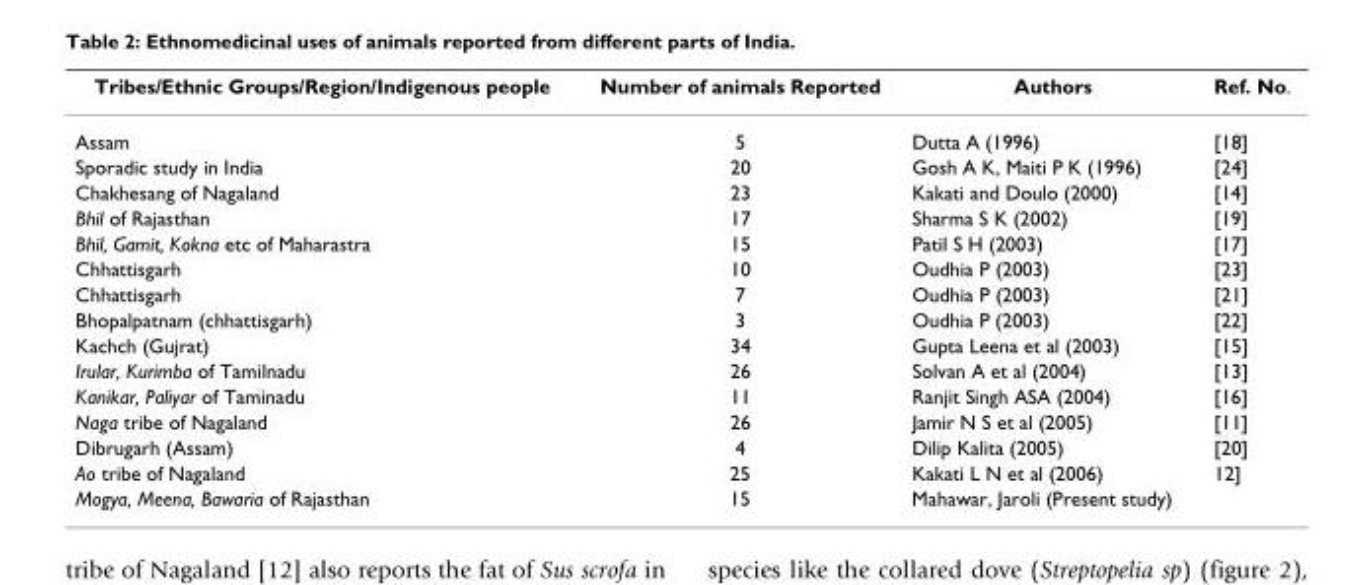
<table><thead><tr><td>Tribes/Ethnic Groups/Region/Indigenous people</td><td>Number of animals Reported</td><td>Authors</td><td>Ref. No.</td></tr></thead><tbody><tr><td>Assam</td><td>5</td><td>Dutta A (1996)</td><td>[18]</td></tr><tr><td>Sporadic study in India</td><td>20</td><td>Gosh A K, Maiti P K (1996)</td><td>[24]</td></tr><tr><td>Chakhesang of Nagaland</td><td>23</td><td>Kakati and Doulo (2000)</td><td>[14]</td></tr><tr><td>Bhil of Rajasthan</td><td>17</td><td>Sharma S K (2002)</td><td>[19]</td></tr><tr><td>Bhil, Gamit, Kokna etc of Maharastra</td><td>15</td><td>Patil S H (2003)</td><td>[17]</td></tr><tr><td>Chhattisgarh</td><td>10</td><td>Oudhia P (2003)</td><td>[23]</td></tr><tr><td>Chhattisgarh</td><td>7</td><td>Oudhia P (2003)</td><td>[21]</td></tr><tr><td>Bhopalpatnam (chhattisgarh)</td><td>3</td><td>Oudhia P (2003)</td><td>[22]</td></tr><tr><td>Kachch (Gujrat)</td><td>34</td><td>Gupta Leena et al (2003)</td><td>[15]</td></tr><tr><td>Irular, Kurimba of Tamilnadu</td><td>26</td><td>Solvan A et al (2004)</td><td>[13]</td></tr><tr><td>Kanikar, Paliyar of Taminadu</td><td>11</td><td>Ranjit Singh ASA (2004)</td><td>[16]</td></tr><tr><td>Naga tribe of Nagaland</td><td>26</td><td>Jamir N S et al (2005)</td><td>[11]</td></tr><tr><td>Dibrugarh (Assam)</td><td>4</td><td>Dilip Kalita (2005)</td><td>[20]</td></tr><tr><td>Ao tribe of Nagaland</td><td>25</td><td>Kakati L N et al (2006)</td><td>12]</td></tr><tr><td>Mogya, Meena, Bawaria of Rajasthan</td><td>15</td><td>Mahawar, Jaroli (Present study)</td><td></td></tr></tbody></table>